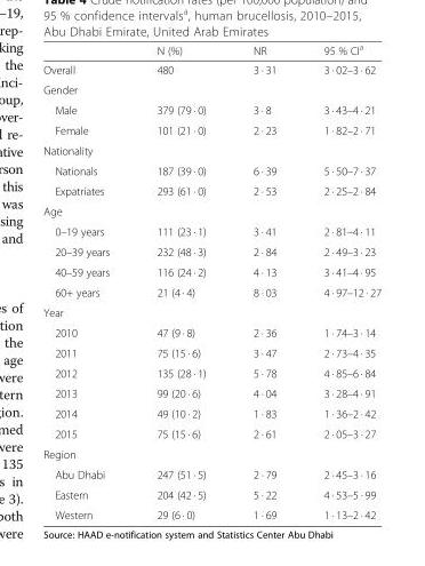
<table><thead><tr><td></td><td>N (%)</td><td>NR</td><td>95 % CI<sup>a</sup></td></tr></thead><tbody><tr><td>Overall</td><td>480</td><td>3 · 31</td><td>3 · 02–3 · 62</td></tr><tr><td colspan="4">Gender</td></tr><tr><td>Male</td><td>379 (79 · 0)</td><td>3 · 8</td><td>3 · 43–4 · 21</td></tr><tr><td>Female</td><td>101 (21 · 0)</td><td>2 · 23</td><td>1 · 82–2 · 71</td></tr><tr><td colspan="4">Nationality</td></tr><tr><td>Nationals</td><td>187 (39 · 0)</td><td>6 · 39</td><td>5 · 50–7 · 37</td></tr><tr><td>Expatriates</td><td>293 (61 · 0)</td><td>2 · 53</td><td>2 · 25–2 · 84</td></tr><tr><td colspan="4">Age</td></tr><tr><td>0–19 years</td><td>111 (23 · 1)</td><td>3 · 41</td><td>2 · 81–4 · 11</td></tr><tr><td>20–39 years</td><td>232 (48 · 3)</td><td>2 · 84</td><td>2 · 49–3 · 23</td></tr><tr><td>40–59 years</td><td>116 (24 · 2)</td><td>4 · 13</td><td>3 · 41–4 · 95</td></tr><tr><td>60+ years</td><td>21 (4 · 4)</td><td>8 · 03</td><td>4 · 97–12 · 27</td></tr><tr><td colspan="4">Year</td></tr><tr><td>2010</td><td>47 (9 · 8)</td><td>2 · 36</td><td>1 · 74–3 · 14</td></tr><tr><td>2011</td><td>75 (15 · 6)</td><td>3 · 47</td><td>2 · 73–4 · 35</td></tr><tr><td>2012</td><td>135 (28 · 1)</td><td>5 · 78</td><td>4 · 85–6 · 84</td></tr><tr><td>2013</td><td>99 (20 · 6)</td><td>4 · 04</td><td>3 · 28–4 · 91</td></tr><tr><td>2014</td><td>49 (10 · 2)</td><td>1 · 83</td><td>1 · 36–2 · 42</td></tr><tr><td>2015</td><td>75 (15 · 6)</td><td>2 · 61</td><td>2 · 05–3 · 27</td></tr><tr><td colspan="4">Region</td></tr><tr><td>Abu Dhabi</td><td>247 (51 · 5)</td><td>2 · 79</td><td>2 · 45–3 · 16</td></tr><tr><td>Eastern</td><td>204 (42 · 5)</td><td>5 · 22</td><td>4 · 53–5 · 99</td></tr><tr><td>Western</td><td>29 (6 · 0)</td><td>1 · 69</td><td>1 · 13–2 · 42</td></tr></tbody></table>